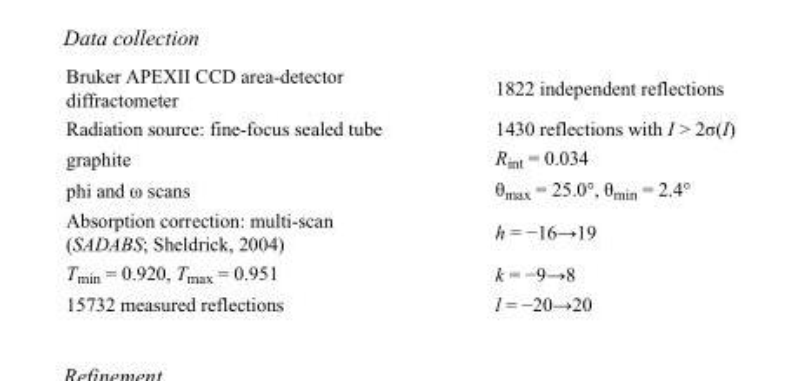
<table><tbody><tr><td>Bruker APEXII CCD area-detector diffractometer</td><td>1822 independent reflections</td></tr><tr><td>Radiation source: fine-focus sealed tube</td><td>1430 reflections with I &gt; 2σ(I)</td></tr><tr><td>graphite</td><td>R<sub>int</sub> = 0.034</td></tr><tr><td>phi and ω scans</td><td>θ<sub>max</sub> = 25.0°, θ<sub>min</sub> = 2.4°</td></tr><tr><td>Absorption correction: multi-scan (SADABS; Sheldrick, 2004)</td><td>h = −16→19</td></tr><tr><td>T<sub>min</sub> = 0.920, T<sub>max</sub> = 0.951</td><td>k = −9→8</td></tr><tr><td>15732 measured reflections</td><td>l = −20→20</td></tr></tbody></table>